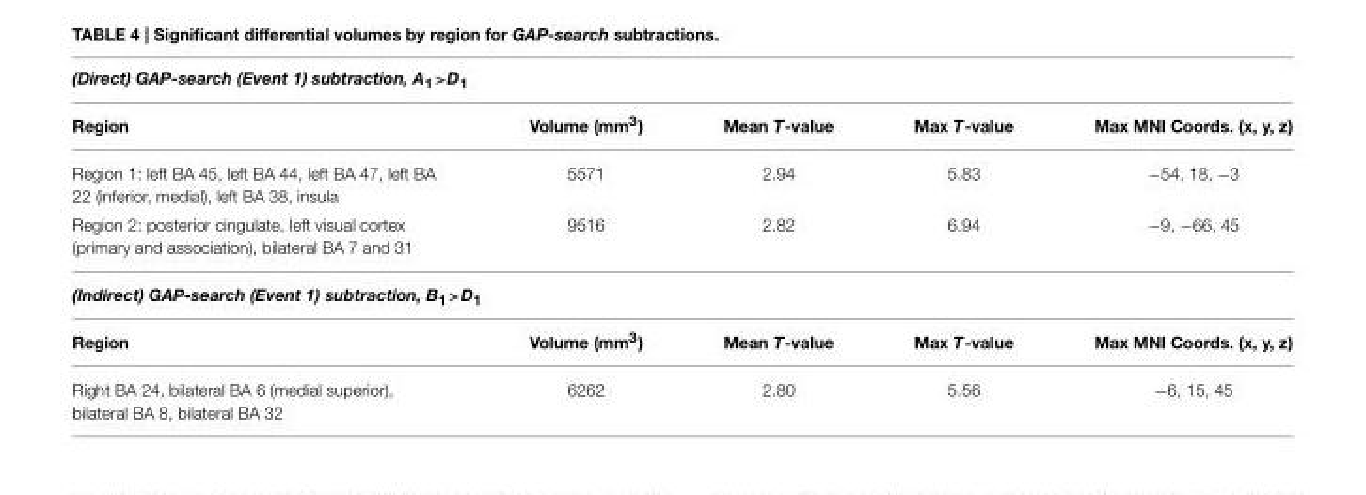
<table><thead><tr><td colspan="5">(Direct) GAP-search (Event 1) subtraction, A<sub>1</sub>&gt;D<sub>1</sub></td></tr><tr><td>Region</td><td>Volume (mm<sup>3</sup>)</td><td>Mean T-value</td><td>Max T-value</td><td>Max MNI Coords. (x, y, z)</td></tr></thead><tbody><tr><td>Region 1: left BA 45, left BA 44, left BA 47, left BA 22 (inferior, medial), left BA 38, insula</td><td>5571</td><td>2.94</td><td>5.83</td><td>−54, 18, −3</td></tr><tr><td>Region 2: posterior cingulate, left visual cortex (primary and association), bilateral BA 7 and 31</td><td>9516</td><td>2.82</td><td>6.94</td><td>−9, −66, 45</td></tr><tr><td colspan="5">(Indirect) GAP-search (Event 1) subtraction, B<sub>1</sub>&gt;D<sub>1</sub></td></tr><tr><td>Region</td><td>Volume (mm<sup>3</sup>)</td><td>Mean T-value</td><td>Max T-value</td><td>Max MNI Coords. (x, y, z)</td></tr><tr><td>Right BA 24, bilateral BA 6 (medial superior), bilateral BA 8, bilateral BA 32</td><td>6262</td><td>2.80</td><td>5.56</td><td>−6, 15, 45</td></tr></tbody></table>